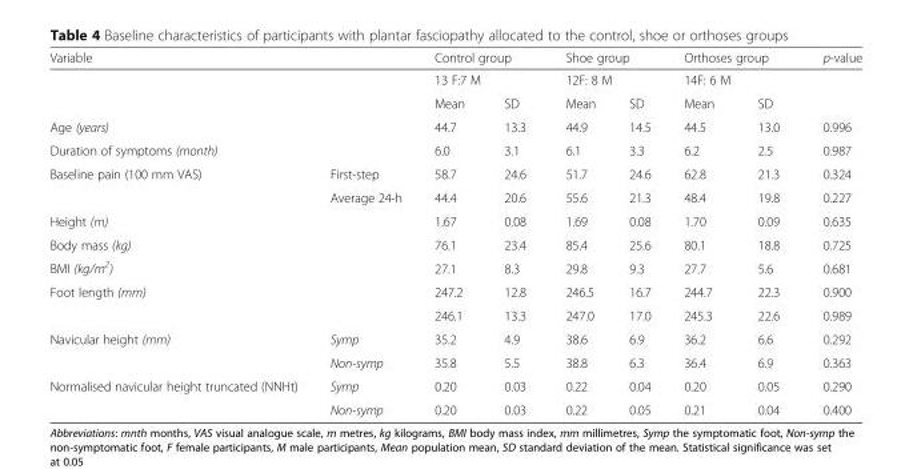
<table><thead><tr><td rowspan="3">Variable</td><td rowspan="3"></td><td rowspan="2" colspan="2">Control group 13 F:7 M</td><td rowspan="2" colspan="2">Shoe group 12F: 8 M</td><td rowspan="2" colspan="2">Orthoses group 14F: 6 M</td><td rowspan="3">p-value</td></tr><tr></tr><tr><td>Mean</td><td>SD</td><td>Mean</td><td>SD</td><td>Mean</td><td>SD</td></tr></thead><tbody><tr><td>Age (years)</td><td></td><td>44.7</td><td>13.3</td><td>44.9</td><td>14.5</td><td>44.5</td><td>13.0</td><td>0.996</td></tr><tr><td>Duration of symptoms (month)</td><td></td><td>6.0</td><td>3.1</td><td>6.1</td><td>3.3</td><td>6.2</td><td>2.5</td><td>0.987</td></tr><tr><td rowspan="2">Baseline pain (100 mm VAS)</td><td>First-step</td><td>58.7</td><td>24.6</td><td>51.7</td><td>24.6</td><td>62.8</td><td>21.3</td><td>0.324</td></tr><tr><td>Average 24-h</td><td>44.4</td><td>20.6</td><td>55.6</td><td>21.3</td><td>48.4</td><td>19.8</td><td>0.227</td></tr><tr><td>Height (m)</td><td></td><td>1.67</td><td>0.08</td><td>1.69</td><td>0.08</td><td>1.70</td><td>0.09</td><td>0.635</td></tr><tr><td>Body mass (kg)</td><td></td><td>76.1</td><td>23.4</td><td>85.4</td><td>25.6</td><td>80.1</td><td>18.8</td><td>0.725</td></tr><tr><td>BMI (kg/m<sup>2</sup>)</td><td></td><td>27.1</td><td>8.3</td><td>29.8</td><td>9.3</td><td>27.7</td><td>5.6</td><td>0.681</td></tr><tr><td rowspan="2">Foot length (mm)</td><td></td><td>247.2</td><td>12.8</td><td>246.5</td><td>16.7</td><td>244.7</td><td>22.3</td><td>0.900</td></tr><tr><td></td><td>246.1</td><td>13.3</td><td>247.0</td><td>17.0</td><td>245.3</td><td>22.6</td><td>0.989</td></tr><tr><td rowspan="2">Navicular height (mm)</td><td>Symp</td><td>35.2</td><td>4.9</td><td>38.6</td><td>6.9</td><td>36.2</td><td>6.6</td><td>0.292</td></tr><tr><td>Non-symp</td><td>35.8</td><td>5.5</td><td>38.8</td><td>6.3</td><td>36.4</td><td>6.9</td><td>0.363</td></tr><tr><td rowspan="2">Normalised navicular height truncated (NNHt)</td><td>Symp</td><td>0.20</td><td>0.03</td><td>0.22</td><td>0.04</td><td>0.20</td><td>0.05</td><td>0.290</td></tr><tr><td>Non-symp</td><td>0.20</td><td>0.03</td><td>0.22</td><td>0.05</td><td>0.21</td><td>0.04</td><td>0.400</td></tr></tbody></table>